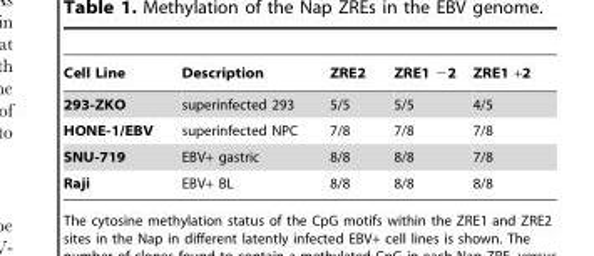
<table><thead><tr><td>Cell Line</td><td>Description</td><td>ZRE2</td><td>ZRE1 −2</td><td>ZRE1 +2</td></tr></thead><tbody><tr><td>293-ZKO</td><td>superinfected 293</td><td>5/5</td><td>5/5</td><td>4/5</td></tr><tr><td>HONE-1/EBV</td><td>superinfected NPC</td><td>7/8</td><td>7/8</td><td>7/8</td></tr><tr><td>SNU-719</td><td>EBV+ gastric</td><td>8/8</td><td>8/8</td><td>7/8</td></tr><tr><td>Raji</td><td>EBV+ BL</td><td>8/8</td><td>8/8</td><td>8/8</td></tr></tbody></table>